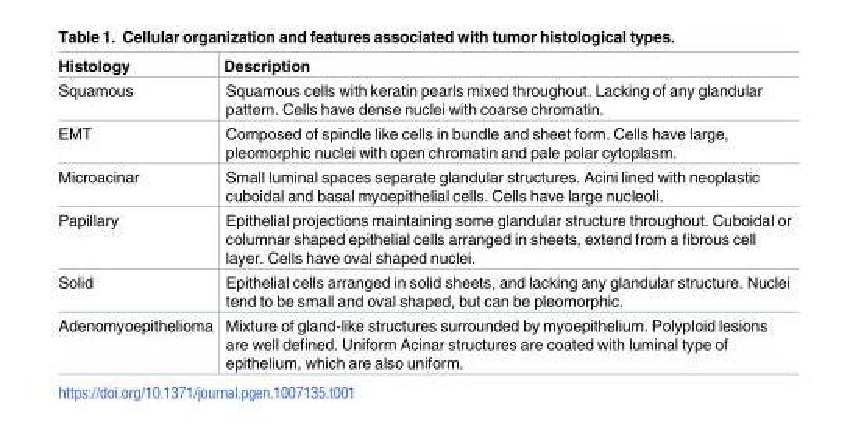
<table><thead><tr><td>Histology</td><td>Description</td></tr></thead><tbody><tr><td>Squamous</td><td>Squamous cells with keratin pearls mixed throughout. Lacking of any glandular pattern. Cells have dense nuclei with coarse chromatin.</td></tr><tr><td>EMT</td><td>Composed of spindle like cells in bundle and sheet form. Cells have large, pleomorphic nuclei with open chromatin and pale polar cytoplasm.</td></tr><tr><td>Microacinar</td><td>Small luminal spaces separate glandular structures. Acini lined with neoplastic cuboidal and basal myoepithelial cells. Cells have large nucleoli.</td></tr><tr><td>Papillary</td><td>Epithelial projections maintaining some glandular structure throughout. Cuboidal or columnar shaped epithelial cells arranged in sheets, extend from a fibrous cell layer. Cells have oval shaped nuclei.</td></tr><tr><td>Solid</td><td>Epithelial cells arranged in solid sheets, and lacking any glandular structure. Nuclei tend to be small and oval shaped, but can be pleomorphic.</td></tr><tr><td>Adenomyoepithelioma</td><td>Mixture of gland-like structures surrounded by myoepithelium. Polyploid lesions are well defined. Uniform Acinar structures are coated with luminal type of epithelium, which are also uniform.</td></tr></tbody></table>